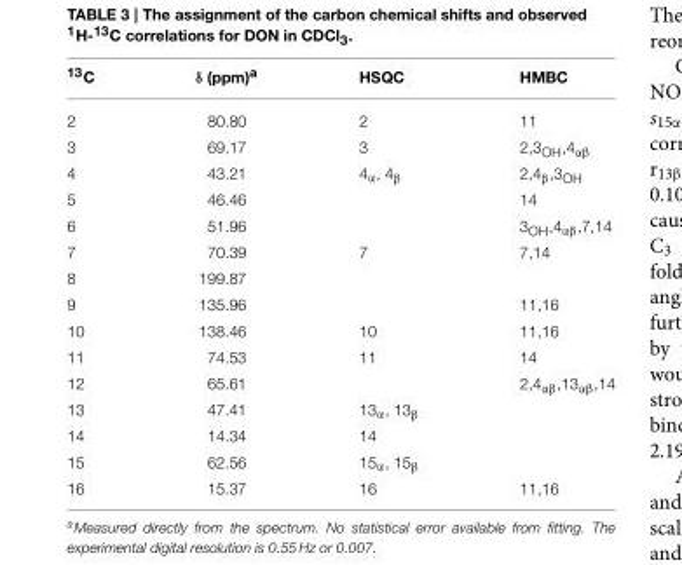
<table><thead><tr><td><sup>13</sup>C</td><td>δ (ppm)<sup>a</sup></td><td>HSQC</td><td>HMBC</td></tr></thead><tbody><tr><td>2</td><td>80.80</td><td>2</td><td>11</td></tr><tr><td>3</td><td>69.17</td><td>3</td><td>2,3<sub>OH</sub>,4<sub>αβ</sub></td></tr><tr><td>4</td><td>43.21</td><td>4<sub>α</sub>, 4<sub>β</sub></td><td>2,4<sub>β</sub>,3<sub>OH</sub></td></tr><tr><td>5</td><td>46.46</td><td></td><td>14</td></tr><tr><td>6</td><td>51.96</td><td></td><td>3<sub>OH</sub>,4<sub>αβ</sub>,7,14</td></tr><tr><td>7</td><td>70.39</td><td>7</td><td>7,14</td></tr><tr><td>8</td><td>199.87</td><td></td><td></td></tr><tr><td>9</td><td>135.96</td><td></td><td>11,16</td></tr><tr><td>10</td><td>138.46</td><td>10</td><td>11,16</td></tr><tr><td>11</td><td>74.53</td><td>11</td><td>14</td></tr><tr><td>12</td><td>65.61</td><td></td><td>2,4<sub>αβ</sub>,13<sub>αβ</sub>,14</td></tr><tr><td>13</td><td>47.41</td><td>13<sub>α</sub>, 13<sub>β</sub></td><td></td></tr><tr><td>14</td><td>14.34</td><td>14</td><td></td></tr><tr><td>15</td><td>62.56</td><td>15<sub>α</sub>, 15<sub>β</sub></td><td></td></tr><tr><td>16</td><td>15.37</td><td>16</td><td>11,16</td></tr></tbody></table>